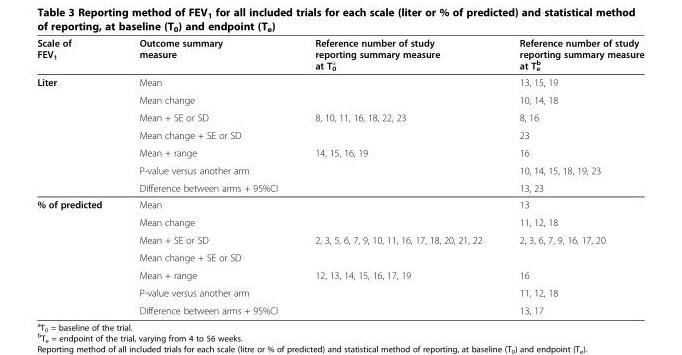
<table><thead><tr><td>Scale of FEV<sub>1</sub></td><td>Outcome summary measure</td><td>Reference number of study reporting summary measure at T<sub>0</sub> <sup>a</sup></td><td>Reference number of study reporting summary measure at T<sub>e</sub> <sup>b</sup></td></tr></thead><tbody><tr><td rowspan="7">Liter</td><td>Mean</td><td></td><td>13, 15, 19</td></tr><tr><td>Mean change</td><td></td><td>10, 14, 18</td></tr><tr><td>Mean + SE or SD</td><td>8, 10, 11, 16, 18, 22, 23</td><td>8, 16</td></tr><tr><td>Mean change + SE or SD</td><td></td><td>23</td></tr><tr><td>Mean + range</td><td>14, 15, 16, 19</td><td>16</td></tr><tr><td>P-value versus another arm</td><td></td><td>10, 14, 15, 18, 19, 23</td></tr><tr><td>Difference between arms + 95%CI</td><td></td><td>13, 23</td></tr><tr><td rowspan="7">% of predicted</td><td>Mean</td><td></td><td>13</td></tr><tr><td>Mean change</td><td></td><td>11, 12, 18</td></tr><tr><td>Mean + SE or SD</td><td>2, 3, 5, 6, 7, 9, 10, 11, 16, 17, 18, 20, 21, 22</td><td>2, 3, 6, 7, 9, 16, 17, 20</td></tr><tr><td>Mean change + SE or SD</td><td></td><td></td></tr><tr><td>Mean + range</td><td>12, 13, 14, 15, 16, 17, 19</td><td>16</td></tr><tr><td>P-value versus another arm</td><td></td><td>11, 12, 18</td></tr><tr><td>Difference between arms + 95%CI</td><td></td><td>13, 17</td></tr></tbody></table>